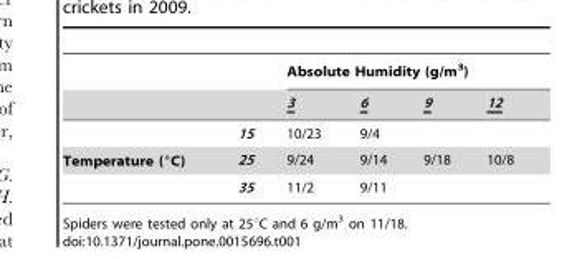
<table><thead><tr><td rowspan="2"></td><td rowspan="2"></td><td colspan="4">Absolute Humidity (g/m<sup>3</sup>)</td></tr><tr><td>3</td><td>6</td><td>9</td><td>12</td></tr></thead><tbody><tr><td></td><td>15</td><td>10/23</td><td>9/4</td><td></td><td></td></tr><tr><td rowspan="2">Temperature (°C)</td><td>25</td><td>9/24</td><td>9/14</td><td>9/18</td><td>10/8</td></tr><tr><td>35</td><td>11/2</td><td>9/11</td><td></td><td></td></tr></tbody></table>